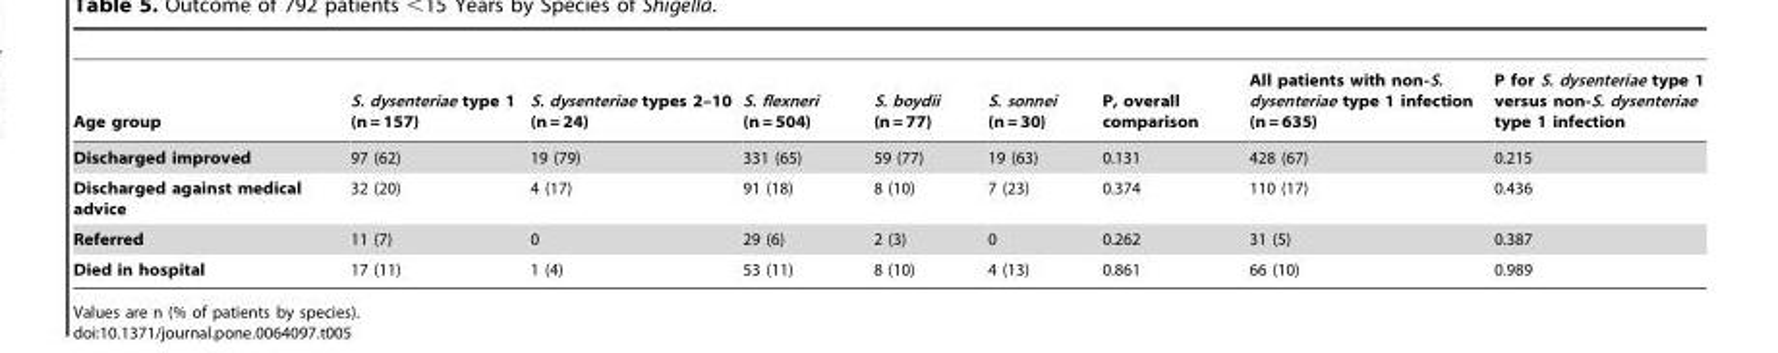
<table><thead><tr><td>Age group</td><td>S. dysenteriae type 1 (n = 157)</td><td>S. dysenteriae types 2–10 (n = 24)</td><td>S. flexneri (n = 504)</td><td>S. boydii (n = 77)</td><td>S. sonnei (n = 30)</td><td>P, overall comparison</td><td>All patients with non-S. dysenteriae type 1 infection (n = 635)</td><td>P for S. dysenteriae type 1 versus non-S. dysenteriae type 1 infection</td></tr></thead><tbody><tr><td>Discharged improved</td><td>97 (62)</td><td>19 (79)</td><td>331 (65)</td><td>59 (77)</td><td>19 (63)</td><td>0.131</td><td>428 (67)</td><td>0.215</td></tr><tr><td>Discharged against medical advice</td><td>32 (20)</td><td>4 (17)</td><td>91 (18)</td><td>8 (10)</td><td>7 (23)</td><td>0.374</td><td>110 (17)</td><td>0.436</td></tr><tr><td>Referred</td><td>11 (7)</td><td>0</td><td>29 (6)</td><td>2 (3)</td><td>0</td><td>0.262</td><td>31 (5)</td><td>0.387</td></tr><tr><td>Died in hospital</td><td>17 (11)</td><td>1 (4)</td><td>53 (11)</td><td>8 (10)</td><td>4 (13)</td><td>0.861</td><td>66 (10)</td><td>0.989</td></tr></tbody></table>